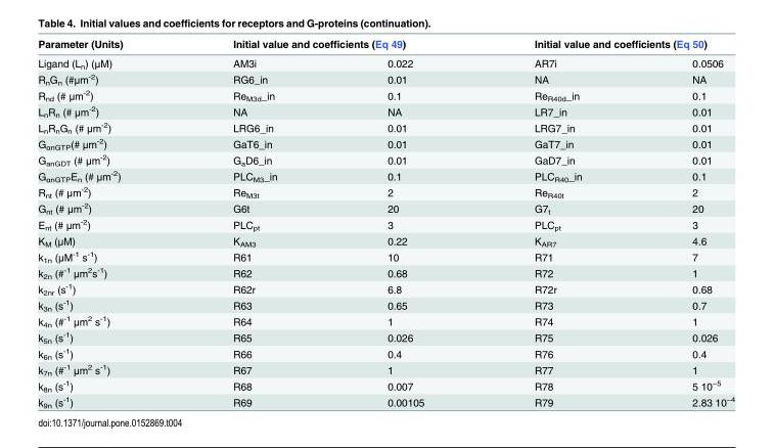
<table><thead><tr><td rowspan="2">Parameter (Units) Ligand (L<sub>n</sub>) (μM)</td><td colspan="2">Initial value and coefficients (Eq 49)</td><td colspan="2">Initial value and coefficients (Eq 50)</td></tr><tr><td>AM3i</td><td>0.022</td><td>AR7i</td><td>0.0506</td></tr></thead><tbody><tr><td>R<sub>n</sub>G<sub>n</sub> (#μm<sup>-2</sup>)</td><td>RG6_in</td><td>0.01</td><td>NA</td><td>NA</td></tr><tr><td>R<sub>nd</sub> (# μm<sup>-2</sup>)</td><td>ReM3d_in</td><td>0.1</td><td>ReR40d_in</td><td>0.1</td></tr><tr><td>L<sub>n</sub>R<sub>n</sub> (# μm<sup>-2</sup>)</td><td>NA</td><td>NA</td><td>LR7_in</td><td>0.01</td></tr><tr><td>L<sub>n</sub>R<sub>n</sub>G<sub>n</sub> (# μm<sup>-2</sup>)</td><td>LRG6_in</td><td>0.01</td><td>LRG7_in</td><td>0.01</td></tr><tr><td>G<sub>αnGTP</sub>(# μm<sup>-2</sup>)</td><td>GaT6_in</td><td>0.01</td><td>GaT7_in</td><td>0.01</td></tr><tr><td>G<sub>anGDT</sub> (# μm<sup>-2</sup>)</td><td>G<sub>a</sub>D6_in</td><td>0.01</td><td>GaD7_in</td><td>0.01</td></tr><tr><td>G<sub>αnGTP</sub>E<sub>n</sub> (# μm<sup>-2</sup>)</td><td>PLCM3_in</td><td>0.1</td><td>PLCR40_in</td><td>0.1</td></tr><tr><td>R<sub>nt</sub> (# μm<sup>-2</sup>)</td><td>Re<sub>M3t</sub></td><td>2</td><td>Re<sub>R40t</sub></td><td>2</td></tr><tr><td>G<sub>nt</sub> (# μm<sup>-2</sup>)</td><td>G6t</td><td>20</td><td>G7<sub>t</sub></td><td>20</td></tr><tr><td>E<sub>nt</sub> (# μm<sup>-2</sup>)</td><td>PLC<sub>pt</sub></td><td>3</td><td>PLC<sub>pt</sub></td><td>3</td></tr><tr><td>K<sub>M</sub> (μM)</td><td>K<sub>AM3</sub></td><td>0.22</td><td>K<sub>AR7</sub></td><td>4.6</td></tr><tr><td>k<sub>1n</sub> (μM<sup>-1</sup> s<sup>-1</sup>)</td><td>R61</td><td>10</td><td>R71</td><td>7</td></tr><tr><td>k<sub>2n</sub> (#<sup>-1</sup> μm<sup>2</sup>s<sup>-1</sup>)</td><td>R62</td><td>0.68</td><td>R72</td><td>1</td></tr><tr><td>k<sub>2nr</sub> (s<sup>-1</sup>)</td><td>R62r</td><td>6.8</td><td>R72r</td><td>0.68</td></tr><tr><td>k<sub>3n</sub> (s<sup>-1</sup>)</td><td>R63</td><td>0.65</td><td>R73</td><td>0.7</td></tr><tr><td>k<sub>4n</sub> (#<sup>-1</sup> μm<sup>2</sup> s<sup>-1</sup>)</td><td>R64</td><td>1</td><td>R74</td><td>1</td></tr><tr><td>k<sub>5n</sub> (s<sup>-1</sup>)</td><td>R65</td><td>0.026</td><td>R75</td><td>0.026</td></tr><tr><td>k<sub>6n</sub> (s<sup>-1</sup>)</td><td>R66</td><td>0.4</td><td>R76</td><td>0.4</td></tr><tr><td>k<sub>7n</sub> (#<sup>-1</sup> μm<sup>2</sup> s<sup>-1</sup>)</td><td>R67</td><td>1</td><td>R77</td><td>1</td></tr><tr><td>k<sub>8n</sub> (s<sup>-1</sup>)</td><td>R68</td><td>0.007</td><td>R78</td><td>5 10<sup>−5</sup></td></tr><tr><td>k<sub>9n</sub> (s<sup>-1</sup>)</td><td>R69</td><td>0.00105</td><td>R79</td><td>2.83 10<sup>−4</sup></td></tr></tbody></table>